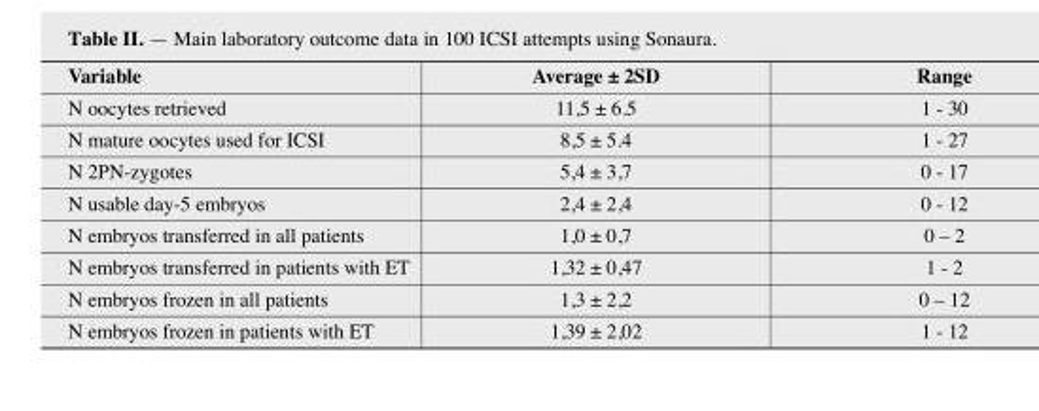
<table><tbody><tr><td>Variable</td><td>Average ± 2SD</td><td>Range</td></tr><tr><td>N oocytes retrieved</td><td>11,5 ± 6.5</td><td>1 - 30</td></tr><tr><td>N mature oocytes used for ICSI</td><td>8,5 ± 5.4</td><td>1 - 27</td></tr><tr><td>N 2PN-zygotes</td><td>5,4 ± 3,7</td><td>0 - 17</td></tr><tr><td>N usable day-5 embryos</td><td>2,4 ± 2,4</td><td>0 - 12</td></tr><tr><td>N embryos transferred in all patients</td><td>1,0 ± 0,7</td><td>0 – 2</td></tr><tr><td>N embryos transferred in patients with ET</td><td>1,32 ± 0,47</td><td>1 - 2</td></tr><tr><td>N embryos frozen in all patients</td><td>1,3 ± 2,2</td><td>0 – 12</td></tr><tr><td>N embryos frozen in patients with ET</td><td>1,39 ± 2,02</td><td>1 - 12</td></tr></tbody></table>